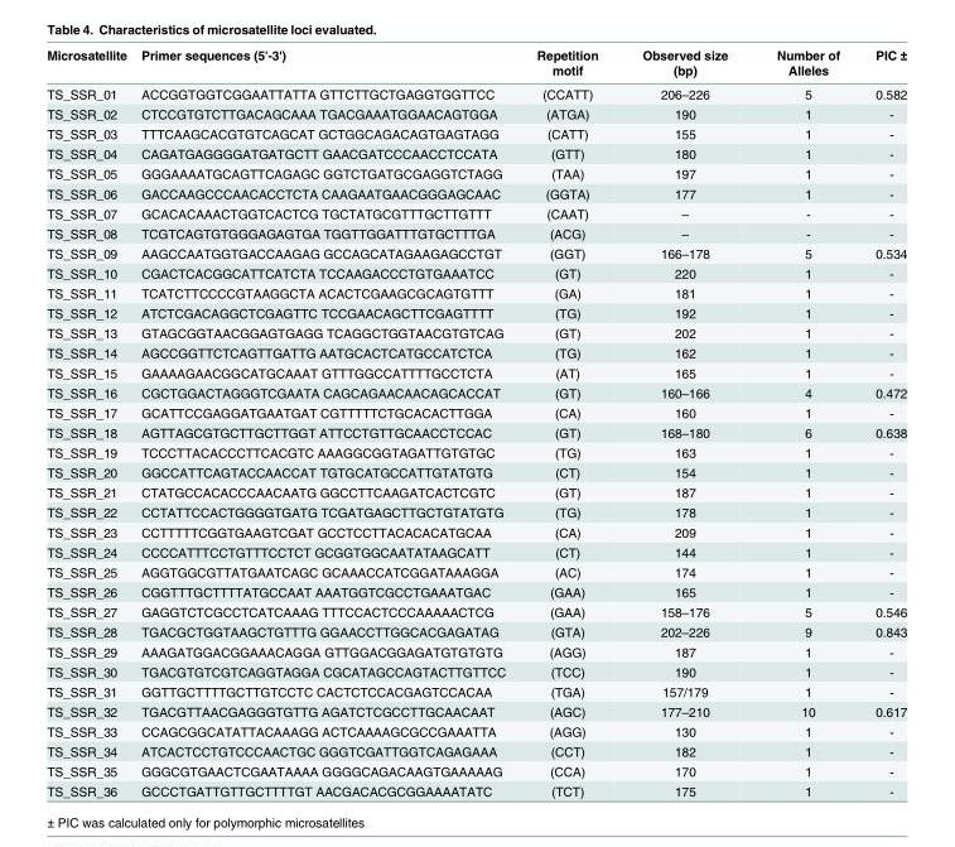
<table><thead><tr><td>Microsatellite</td><td>Primer sequences (5&#x27;-3&#x27;)</td><td>Repetition motif</td><td>Observed size (bp)</td><td>Number of Alleles</td><td>PIC ±</td></tr></thead><tbody><tr><td>TS_SSR_01</td><td>ACCGGTGGTCGGAATTATTA GTTCTTGCTGAGGTGGTTCC</td><td>(CCATT)</td><td>206–226</td><td>5</td><td>0.582</td></tr><tr><td>TS_SSR_02</td><td>CTCCGTGTCTTGACAGCAAA TGACGAAATGGAACAGTGGA</td><td>(ATGA)</td><td>190</td><td>1</td><td>-</td></tr><tr><td>TS_SSR_03</td><td>TTTCAAGCACGTGTCAGCAT GCTGGCAGACAGTGAGTAGG</td><td>(CATT)</td><td>155</td><td>1</td><td>-</td></tr><tr><td>TS_SSR_04</td><td>CAGATGAGGGGATGATGCTT GAACGATCCCAACCTCCATA</td><td>(GTT)</td><td>180</td><td>1</td><td>-</td></tr><tr><td>TS_SSR_05</td><td>GGGAAAATGCAGTTCAGAGC GGTCTGATGCGAGGTCTAGG</td><td>(TAA)</td><td>197</td><td>1</td><td>-</td></tr><tr><td>TS_SSR_06</td><td>GACCAAGCCCAACACCTCTA CAAGAATGAACGGGAGCAAC</td><td>(GGTA)</td><td>177</td><td>1</td><td>-</td></tr><tr><td>TS_SSR_07</td><td>GCACACAAACTGGTCACTCG TGCTATGCGTTTGCTTGTTT</td><td>(CAAT)</td><td>–</td><td>-</td><td>-</td></tr><tr><td>TS_SSR_08</td><td>TCGTCAGTGTGGGAGAGTGA TGGTTGGATTTGTGCTTTGA</td><td>(ACG)</td><td>–</td><td>-</td><td>-</td></tr><tr><td>TS_SSR_09</td><td>AAGCCAATGGTGACCAAGAG GCCAGCATAGAAGAGCCTGT</td><td>(GGT)</td><td>166–178</td><td>5</td><td>0.534</td></tr><tr><td>TS_SSR_10</td><td>CGACTCACGGCATTCATCTA TCCAAGACCCTGTGAAATCC</td><td>(GT)</td><td>220</td><td>1</td><td>-</td></tr><tr><td>TS_SSR_11</td><td>TCATCTTCCCCGTAAGGCTA ACACTCGAAGCGCAGTGTTT</td><td>(GA)</td><td>181</td><td>1</td><td>-</td></tr><tr><td>TS_SSR_12</td><td>ATCTCGACAGGCTCGAGTTC TCCGAACAGCTTCGAGTTTT</td><td>(TG)</td><td>192</td><td>1</td><td>-</td></tr><tr><td>TS_SSR_13</td><td>GTAGCGGTAACGGAGTGAGG TCAGGCTGGTAACGTGTCAG</td><td>(GT)</td><td>202</td><td>1</td><td>-</td></tr><tr><td>TS_SSR_14</td><td>AGCCGGTTCTCAGTTGATTG AATGCACTCATGCCATCTCA</td><td>(TG)</td><td>162</td><td>1</td><td>-</td></tr><tr><td>TS_SSR_15</td><td>GAAAAGAACGGCATGCAAAT GTTTGGCCATTTTGCCTCTA</td><td>(AT)</td><td>165</td><td>1</td><td>-</td></tr><tr><td>TS_SSR_16</td><td>CGCTGGACTAGGGTCGAATA CAGCAGAACAACAGCACCAT</td><td>(GT)</td><td>160–166</td><td>4</td><td>0.472</td></tr><tr><td>TS_SSR_17</td><td>GCATTCCGAGGATGAATGAT CGTTTTTCTGCACACTTGGA</td><td>(CA)</td><td>160</td><td>1</td><td>-</td></tr><tr><td>TS_SSR_18</td><td>AGTTAGCGTGCTTGCTTGGT ATTCCTGTTGCAACCTCCAC</td><td>(GT)</td><td>168–180</td><td>6</td><td>0.638</td></tr><tr><td>TS_SSR_19</td><td>TCCCTTACACCCTTCACGTC AAAGGCGGTAGATTGTGTGC</td><td>(TG)</td><td>163</td><td>1</td><td>-</td></tr><tr><td>TS_SSR_20</td><td>GGCCATTCAGTACCAACCAT TGTGCATGCCATTGTATGTG</td><td>(CT)</td><td>154</td><td>1</td><td>-</td></tr><tr><td>TS_SSR_21</td><td>CTATGCCACACCCAACAATG GGCCTTCAAGATCACTCGTC</td><td>(GT)</td><td>187</td><td>1</td><td>-</td></tr><tr><td>TS_SSR_22</td><td>CCTATTCCACTGGGGTGATG TCGATGAGCTTGCTGTATGTG</td><td>(TG)</td><td>178</td><td>1</td><td>-</td></tr><tr><td>TS_SSR_23</td><td>CCTTTTTCGGTGAAGTCGAT GCCTCCTTACACACATGCAA</td><td>(CA)</td><td>209</td><td>1</td><td>-</td></tr><tr><td>TS_SSR_24</td><td>CCCCATTTCCTGTTTCCTCT GCGGTGGCAATATAAGCATT</td><td>(CT)</td><td>144</td><td>1</td><td>-</td></tr><tr><td>TS_SSR_25</td><td>AGGTGGCGTTATGAATCAGC GCAAACCATCGGATAAAGGA</td><td>(AC)</td><td>174</td><td>1</td><td>-</td></tr><tr><td>TS_SSR_26</td><td>CGGTTTGCTTTTATGCCAAT AAATGGTCGCCTGAAATGAC</td><td>(GAA)</td><td>165</td><td>1</td><td>-</td></tr><tr><td>TS_SSR_27</td><td>GAGGTCTCGCCTCATCAAAG TTTCCACTCCCAAAAACTCG</td><td>(GAA)</td><td>158–176</td><td>5</td><td>0.546</td></tr><tr><td>TS_SSR_28</td><td>TGACGCTGGTAAGCTGTTTG GGAACCTTGGCACGAGATAG</td><td>(GTA)</td><td>202–226</td><td>9</td><td>0.843</td></tr><tr><td>TS_SSR_29</td><td>AAAGATGGACGGAAACAGGA GTTGGACGGAGATGTGTGTG</td><td>(AGG)</td><td>187</td><td>1</td><td>-</td></tr><tr><td>TS_SSR_30</td><td>TGACGTGTCGTCAGGTAGGA CGCATAGCCAGTACTTGTTCC</td><td>(TCC)</td><td>190</td><td>1</td><td>-</td></tr><tr><td>TS_SSR_31</td><td>GGTTGCTTTTGCTTGTCCTC CACTCTCCACGAGTCCACAA</td><td>(TGA)</td><td>157/179</td><td>1</td><td>-</td></tr><tr><td>TS_SSR_32</td><td>TGACGTTAACGAGGGTGTTG AGATCTCGCCTTGCAACAAT</td><td>(AGC)</td><td>177–210</td><td>10</td><td>0.617</td></tr><tr><td>TS_SSR_33</td><td>CCAGCGGCATATTACAAAGG ACTCAAAAGCGCCGAAATTA</td><td>(AGG)</td><td>130</td><td>1</td><td>-</td></tr><tr><td>TS_SSR_34</td><td>ATCACTCCTGTCCCAACTGC GGGTCGATTGGTCAGAGAAA</td><td>(CCT)</td><td>182</td><td>1</td><td>-</td></tr><tr><td>TS_SSR_35</td><td>GGGCGTGAACTCGAATAAAA GGGGCAGACAAGTGAAAAAG</td><td>(CCA)</td><td>170</td><td>1</td><td>-</td></tr><tr><td>TS_SSR_36</td><td>GCCCTGATTGTTGCTTTTGT AACGACACGCGGAAAATATC</td><td>(TCT)</td><td>175</td><td>1</td><td>-</td></tr></tbody></table>